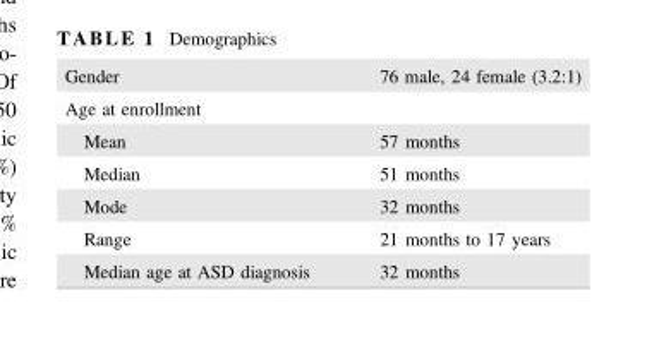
<table><tbody><tr><td>Gender</td><td>76 male, 24 female (3.2:1)</td></tr><tr><td colspan="2">Age at enrollment</td></tr><tr><td>Mean</td><td>57 months</td></tr><tr><td>Median</td><td>51 months</td></tr><tr><td>Mode</td><td>32 months</td></tr><tr><td>Range</td><td>21 months to 17 years</td></tr><tr><td>Median age at ASD diagnosis</td><td>32 months</td></tr></tbody></table>